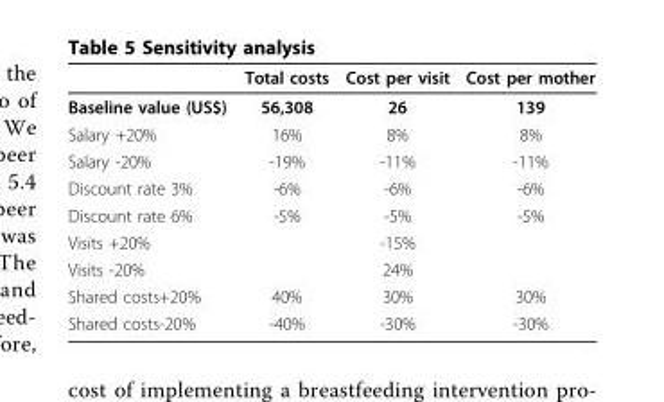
<table><thead><tr><td></td><td>Total costs</td><td>Cost per visit</td><td>Cost per mother</td></tr></thead><tbody><tr><td>Baseline value (US$)</td><td>56,308</td><td>26</td><td>139</td></tr><tr><td>Salary +20%</td><td>16%</td><td>8%</td><td>8%</td></tr><tr><td>Salary -20%</td><td>-19%</td><td>-11%</td><td>-11%</td></tr><tr><td>Discount rate 3%</td><td>-6%</td><td>-6%</td><td>-6%</td></tr><tr><td>Discount rate 6%</td><td>-5%</td><td>-5%</td><td>-5%</td></tr><tr><td>Visits +20%</td><td></td><td>-15%</td><td></td></tr><tr><td>Visits -20%</td><td></td><td>24%</td><td></td></tr><tr><td>Shared costs+20%</td><td>40%</td><td>30%</td><td>30%</td></tr><tr><td>Shared costs-20%</td><td>-40%</td><td>-30%</td><td>-30%</td></tr></tbody></table>